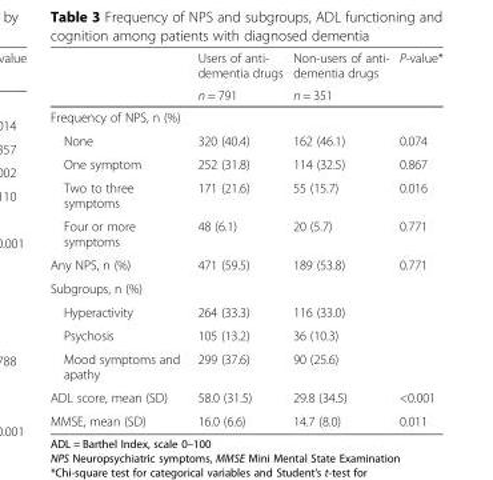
<table><thead><tr><td rowspan="2"></td><td rowspan="2">Users of anti- dementia drugs n = 791</td><td rowspan="2">Non-users of anti- dementia drugs n = 351</td><td rowspan="2">P-value*</td></tr><tr></tr></thead><tbody><tr><td colspan="4">Frequency of NPS, n (%)</td></tr><tr><td>None</td><td>320 (40.4)</td><td>162 (46.1)</td><td>0.074</td></tr><tr><td>One symptom</td><td>252 (31.8)</td><td>114 (32.5)</td><td>0.867</td></tr><tr><td>Two to three symptoms</td><td>171 (21.6)</td><td>55 (15.7)</td><td>0.016</td></tr><tr><td>Four or more symptoms</td><td>48 (6.1)</td><td>20 (5.7)</td><td>0.771</td></tr><tr><td>Any NPS, n (%)</td><td>471 (59.5)</td><td>189 (53.8)</td><td>0.771</td></tr><tr><td colspan="4">Subgroups, n (%)</td></tr><tr><td>Hyperactivity</td><td>264 (33.3)</td><td>116 (33.0)</td><td></td></tr><tr><td>Psychosis</td><td>105 (13.2)</td><td>36 (10.3)</td><td></td></tr><tr><td>Mood symptoms and apathy</td><td>299 (37.6)</td><td>90 (25.6)</td><td></td></tr><tr><td>ADL score, mean (SD)</td><td>58.0 (31.5)</td><td>29.8 (34.5)</td><td>&lt;0.001</td></tr><tr><td>MMSE, mean (SD)</td><td>16.0 (6.6)</td><td>14.7 (8.0)</td><td>0.011</td></tr></tbody></table>